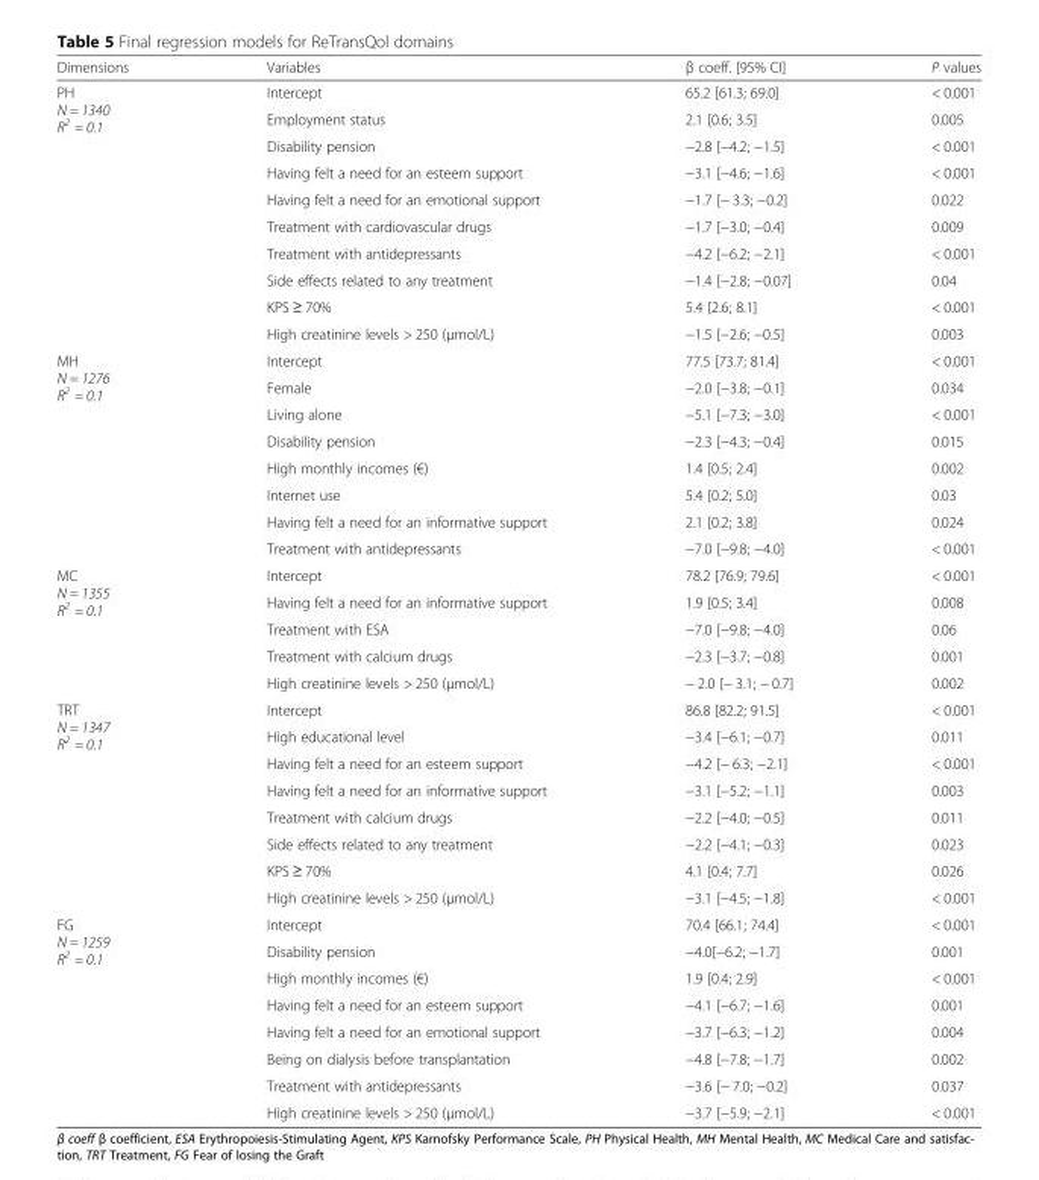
<table><thead><tr><td>Dimensions</td><td>Variables</td><td>β coeff. [95% CI]</td><td>P values</td></tr></thead><tbody><tr><td rowspan="10">PH N = 1340 R<sup>2</sup> = 0.1</td><td>Intercept</td><td>65.2 [61.3; 69.0]</td><td>&lt; 0.001</td></tr><tr><td>Employment status</td><td>2.1 [0.6; 3.5]</td><td>0.005</td></tr><tr><td>Disability pension</td><td>−2.8 [−4.2; −1.5]</td><td>&lt; 0.001</td></tr><tr><td>Having felt a need for an esteem support</td><td>−3.1 [−4.6; −1.6]</td><td>&lt; 0.001</td></tr><tr><td>Having felt a need for an emotional support</td><td>−1.7 [− 3.3; −0.2]</td><td>0.022</td></tr><tr><td>Treatment with cardiovascular drugs</td><td>−1.7 [−3.0; −0.4]</td><td>0.009</td></tr><tr><td>Treatment with antidepressants</td><td>−4.2 [−6.2; −2.1]</td><td>&lt; 0.001</td></tr><tr><td>Side effects related to any treatment</td><td>−1.4 [−2.8; −0.07]</td><td>0.04</td></tr><tr><td>KPS ≥ 70%</td><td>5.4 [2.6; 8.1]</td><td>&lt; 0.001</td></tr><tr><td>High creatinine levels &gt; 250 (μmol/L)</td><td>−1.5 [−2.6; −0.5]</td><td>0.003</td></tr><tr><td rowspan="8">MH N = 1276 R<sup>2</sup> = 0.1</td><td>Intercept</td><td>77.5 [73.7; 81.4]</td><td>&lt; 0.001</td></tr><tr><td>Female</td><td>−2.0 [−3.8; −0.1]</td><td>0.034</td></tr><tr><td>Living alone</td><td>−5.1 [−7.3; −3.0]</td><td>&lt; 0.001</td></tr><tr><td>Disability pension</td><td>−2.3 [−4.3; −0.4]</td><td>0.015</td></tr><tr><td>High monthly incomes (€)</td><td>1.4 [0.5; 2.4]</td><td>0.002</td></tr><tr><td>Internet use</td><td>5.4 [0.2; 5.0]</td><td>0.03</td></tr><tr><td>Having felt a need for an informative support</td><td>2.1 [0.2; 3.8]</td><td>0.024</td></tr><tr><td>Treatment with antidepressants</td><td>−7.0 [−9.8; −4.0]</td><td>&lt; 0.001</td></tr><tr><td rowspan="5">MC N = 1355 R<sup>2</sup> = 0.1</td><td>Intercept</td><td>78.2 [76.9; 79.6]</td><td>&lt; 0.001</td></tr><tr><td>Having felt a need for an informative support</td><td>1.9 [0.5; 3.4]</td><td>0.008</td></tr><tr><td>Treatment with ESA</td><td>−7.0 [−9.8; −4.0]</td><td>0.06</td></tr><tr><td>Treatment with calcium drugs</td><td>−2.3 [−3.7; −0.8]</td><td>0.001</td></tr><tr><td>High creatinine levels &gt; 250 (μmol/L)</td><td>− 2.0 [− 3.1; − 0.7]</td><td>0.002</td></tr><tr><td rowspan="8">TRT N = 1347 R<sup>2</sup> = 0.1</td><td>Intercept</td><td>86.8 [82.2; 91.5]</td><td>&lt; 0.001</td></tr><tr><td>High educational level</td><td>−3.4 [−6.1; −0.7]</td><td>0.011</td></tr><tr><td>Having felt a need for an esteem support</td><td>−4.2 [− 6.3; −2.1]</td><td>&lt; 0.001</td></tr><tr><td>Having felt a need for an informative support</td><td>−3.1 [−5.2; −1.1]</td><td>0.003</td></tr><tr><td>Treatment with calcium drugs</td><td>−2.2 [−4.0; −0.5]</td><td>0.011</td></tr><tr><td>Side effects related to any treatment</td><td>−2.2 [−4.1; −0.3]</td><td>0.023</td></tr><tr><td>KPS ≥ 70%</td><td>4.1 [0.4; 7.7]</td><td>0.026</td></tr><tr><td>High creatinine levels &gt; 250 (μmol/L)</td><td>−3.1 [−4.5; −1.8]</td><td>&lt; 0.001</td></tr><tr><td rowspan="8">FG N = 1259 R<sup>2</sup> = 0.1</td><td>Intercept</td><td>70.4 [66.1; 74.4]</td><td>&lt; 0.001</td></tr><tr><td>Disability pension</td><td>−4.0[−6.2; −1.7]</td><td>0.001</td></tr><tr><td>High monthly incomes (€)</td><td>1.9 [0.4; 2.9]</td><td>&lt; 0.001</td></tr><tr><td>Having felt a need for an esteem support</td><td>−4.1 [−6.7; −1.6]</td><td>0.001</td></tr><tr><td>Having felt a need for an emotional support</td><td>−3.7 [−6.3; −1.2]</td><td>0.004</td></tr><tr><td>Being on dialysis before transplantation</td><td>−4.8 [−7.8; −1.7]</td><td>0.002</td></tr><tr><td>Treatment with antidepressants</td><td>−3.6 [− 7.0; −0.2]</td><td>0.037</td></tr><tr><td>High creatinine levels &gt; 250 (μmol/L)</td><td>−3.7 [−5.9; −2.1]</td><td>&lt; 0.001</td></tr></tbody></table>